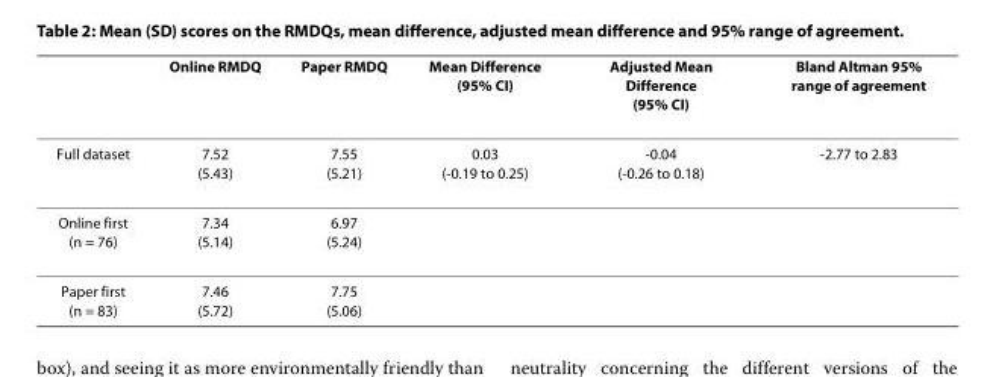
<table><thead><tr><td></td><td>Online RMDQ</td><td>Paper RMDQ</td><td>Mean Difference (95% CI)</td><td>Adjusted Mean Difference (95% CI)</td><td>Bland Altman 95% range of agreement</td></tr></thead><tbody><tr><td>Full dataset</td><td>7.52 (5.43)</td><td>7.55 (5.21)</td><td>0.03 (-0.19 to 0.25)</td><td>-0.04 (-0.26 to 0.18)</td><td>-2.77 to 2.83</td></tr><tr><td>Online first (n = 76)</td><td>7.34 (5.14)</td><td>6.97 (5.24)</td><td></td><td></td><td></td></tr><tr><td>Paper first (n = 83)</td><td>7.46 (5.72)</td><td>7.75 (5.06)</td><td></td><td></td><td></td></tr></tbody></table>